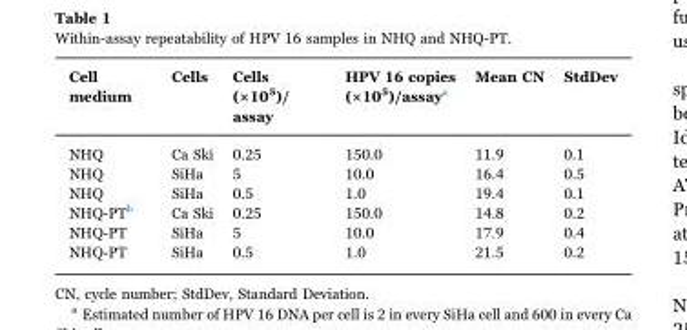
<table><thead><tr><td>Cell medium</td><td>Cells</td><td>Cells (×10<sup>5</sup>)/ assay</td><td>HPV 16 copies (×10<sup>5</sup>)/assay<sup>a</sup></td><td>Mean CN</td><td>StdDev</td></tr></thead><tbody><tr><td>NHQ</td><td>Ca Ski</td><td>0.25</td><td>150.0</td><td>11.9</td><td>0.1</td></tr><tr><td>NHQ</td><td>SiHa</td><td>5</td><td>10.0</td><td>16.4</td><td>0.5</td></tr><tr><td>NHQ</td><td>SiHa</td><td>0.5</td><td>1.0</td><td>19.4</td><td>0.1</td></tr><tr><td>NHQ-PT<sup>b</sup></td><td>Ca Ski</td><td>0.25</td><td>150.0</td><td>14.8</td><td>0.2</td></tr><tr><td>NHQ-PT</td><td>SiHa</td><td>5</td><td>10.0</td><td>17.9</td><td>0.4</td></tr><tr><td>NHQ-PT</td><td>SiHa</td><td>0.5</td><td>1.0</td><td>21.5</td><td>0.2</td></tr></tbody></table>